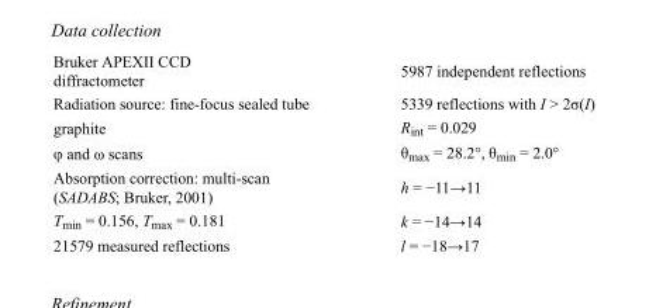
<table><tbody><tr><td>Bruker APEXII CCD diffractometer</td><td>5987 independent reflections</td></tr><tr><td>Radiation source: fine-focus sealed tube</td><td>5339 reflections with I &gt; 2σ(I)</td></tr><tr><td>graphite</td><td>R<sub>int</sub> = 0.029</td></tr><tr><td>φ and ω scans</td><td>θ<sub>max</sub> = 28.2°, θ<sub>min</sub> = 2.0°</td></tr><tr><td>Absorption correction: multi-scan (SADABS; Bruker, 2001)</td><td>h = −11→11</td></tr><tr><td>T<sub>min</sub> = 0.156, T<sub>max</sub> = 0.181</td><td>k = −14→14</td></tr><tr><td>21579 measured reflections</td><td>l = −18→17</td></tr></tbody></table>